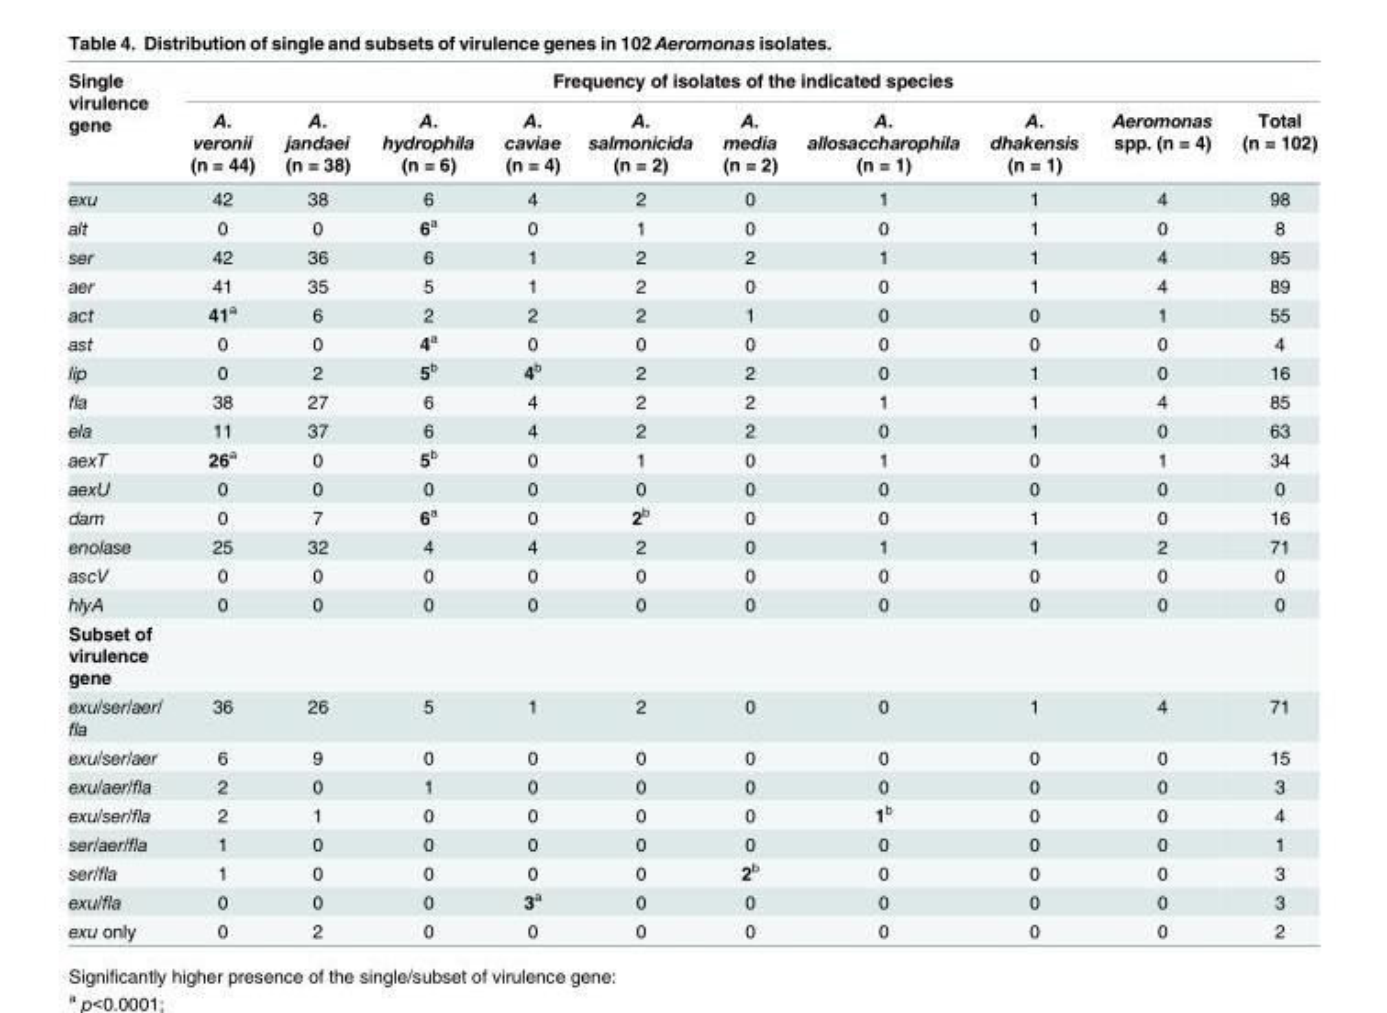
<table><thead><tr><td rowspan="2">Single virulence gene</td><td colspan="10">Frequency of isolates of the indicated species</td></tr><tr><td>A. veronii (n = 44)</td><td>A. jandaei (n = 38)</td><td>A. hydrophila (n = 6)</td><td>A. caviae (n = 4)</td><td>A. salmonicida (n = 2)</td><td>A. media (n = 2)</td><td>A. allosaccharophila (n = 1)</td><td>A. dhakensis (n = 1)</td><td>Aeromonas spp. (n = 4)</td><td>Total (n = 102)</td></tr></thead><tbody><tr><td>exu</td><td>42</td><td>38</td><td>6</td><td>4</td><td>2</td><td>0</td><td>1</td><td>1</td><td>4</td><td>98</td></tr><tr><td>alt</td><td>0</td><td>0</td><td>6<sup>a</sup></td><td>0</td><td>1</td><td>0</td><td>0</td><td>1</td><td>0</td><td>8</td></tr><tr><td>ser</td><td>42</td><td>36</td><td>6</td><td>1</td><td>2</td><td>2</td><td>1</td><td>1</td><td>4</td><td>95</td></tr><tr><td>aer</td><td>41</td><td>35</td><td>5</td><td>1</td><td>2</td><td>0</td><td>0</td><td>1</td><td>4</td><td>89</td></tr><tr><td>act</td><td>41<sup>a</sup></td><td>6</td><td>2</td><td>2</td><td>2</td><td>1</td><td>0</td><td>0</td><td>1</td><td>55</td></tr><tr><td>ast</td><td>0</td><td>0</td><td>4<sup>a</sup></td><td>0</td><td>0</td><td>0</td><td>0</td><td>0</td><td>0</td><td>4</td></tr><tr><td>lip</td><td>0</td><td>2</td><td>5<sup>b</sup></td><td>4<sup>b</sup></td><td>2</td><td>2</td><td>0</td><td>1</td><td>0</td><td>16</td></tr><tr><td>fla</td><td>38</td><td>27</td><td>6</td><td>4</td><td>2</td><td>2</td><td>1</td><td>1</td><td>4</td><td>85</td></tr><tr><td>ela</td><td>11</td><td>37</td><td>6</td><td>4</td><td>2</td><td>2</td><td>0</td><td>1</td><td>0</td><td>63</td></tr><tr><td>aexT</td><td>26<sup>a</sup></td><td>0</td><td>5<sup>b</sup></td><td>0</td><td>1</td><td>0</td><td>1</td><td>0</td><td>1</td><td>34</td></tr><tr><td>aexU</td><td>0</td><td>0</td><td>0</td><td>0</td><td>0</td><td>0</td><td>0</td><td>0</td><td>0</td><td>0</td></tr><tr><td>dam</td><td>0</td><td>7</td><td>6<sup>a</sup></td><td>0</td><td>2<sup>b</sup></td><td>0</td><td>0</td><td>1</td><td>0</td><td>16</td></tr><tr><td>enolase</td><td>25</td><td>32</td><td>4</td><td>4</td><td>2</td><td>0</td><td>1</td><td>1</td><td>2</td><td>71</td></tr><tr><td>ascV</td><td>0</td><td>0</td><td>0</td><td>0</td><td>0</td><td>0</td><td>0</td><td>0</td><td>0</td><td>0</td></tr><tr><td>hlyA</td><td>0</td><td>0</td><td>0</td><td>0</td><td>0</td><td>0</td><td>0</td><td>0</td><td>0</td><td>0</td></tr><tr><td colspan="11">Subset of virulence gene</td></tr><tr><td>exu/ser/aer/ fla</td><td>36</td><td>26</td><td>5</td><td>1</td><td>2</td><td>0</td><td>0</td><td>1</td><td>4</td><td>71</td></tr><tr><td>exu/ser/aer</td><td>6</td><td>9</td><td>0</td><td>0</td><td>0</td><td>0</td><td>0</td><td>0</td><td>0</td><td>15</td></tr><tr><td>exu/aer/fla</td><td>2</td><td>0</td><td>1</td><td>0</td><td>0</td><td>0</td><td>0</td><td>0</td><td>0</td><td>3</td></tr><tr><td>exu/ser/fla</td><td>2</td><td>1</td><td>0</td><td>0</td><td>0</td><td>0</td><td>1<sup>b</sup></td><td>0</td><td>0</td><td>4</td></tr><tr><td>ser/aer/fla</td><td>1</td><td>0</td><td>0</td><td>0</td><td>0</td><td>0</td><td>0</td><td>0</td><td>0</td><td>1</td></tr><tr><td>ser/fla</td><td>1</td><td>0</td><td>0</td><td>0</td><td>0</td><td>2<sup>b</sup></td><td>0</td><td>0</td><td>0</td><td>3</td></tr><tr><td>exu/fla</td><td>0</td><td>0</td><td>0</td><td>3<sup>a</sup></td><td>0</td><td>0</td><td>0</td><td>0</td><td>0</td><td>3</td></tr><tr><td>exu only</td><td>0</td><td>2</td><td>0</td><td>0</td><td>0</td><td>0</td><td>0</td><td>0</td><td>0</td><td>2</td></tr></tbody></table>